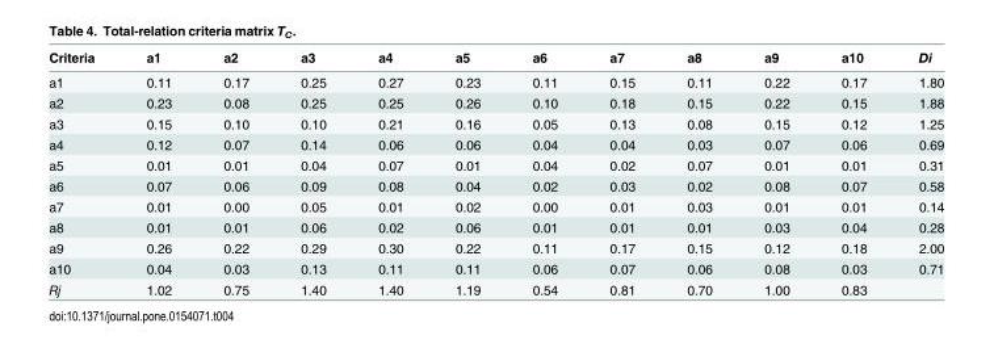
<table><thead><tr><td>Criteria</td><td>a1</td><td>a2</td><td>a3</td><td>a4</td><td>a5</td><td>a6</td><td>a7</td><td>a8</td><td>a9</td><td>a10</td><td>Di</td></tr></thead><tbody><tr><td>a1</td><td>0.11</td><td>0.17</td><td>0.25</td><td>0.27</td><td>0.23</td><td>0.11</td><td>0.15</td><td>0.11</td><td>0.22</td><td>0.17</td><td>1.80</td></tr><tr><td>a2</td><td>0.23</td><td>0.08</td><td>0.25</td><td>0.25</td><td>0.26</td><td>0.10</td><td>0.18</td><td>0.15</td><td>0.22</td><td>0.15</td><td>1.88</td></tr><tr><td>a3</td><td>0.15</td><td>0.10</td><td>0.10</td><td>0.21</td><td>0.16</td><td>0.05</td><td>0.13</td><td>0.08</td><td>0.15</td><td>0.12</td><td>1.25</td></tr><tr><td>a4</td><td>0.12</td><td>0.07</td><td>0.14</td><td>0.06</td><td>0.06</td><td>0.04</td><td>0.04</td><td>0.03</td><td>0.07</td><td>0.06</td><td>0.69</td></tr><tr><td>a5</td><td>0.01</td><td>0.01</td><td>0.04</td><td>0.07</td><td>0.01</td><td>0.04</td><td>0.02</td><td>0.07</td><td>0.01</td><td>0.01</td><td>0.31</td></tr><tr><td>a6</td><td>0.07</td><td>0.06</td><td>0.09</td><td>0.08</td><td>0.04</td><td>0.02</td><td>0.03</td><td>0.02</td><td>0.08</td><td>0.07</td><td>0.58</td></tr><tr><td>a7</td><td>0.01</td><td>0.00</td><td>0.05</td><td>0.01</td><td>0.02</td><td>0.00</td><td>0.01</td><td>0.03</td><td>0.01</td><td>0.01</td><td>0.14</td></tr><tr><td>a8</td><td>0.01</td><td>0.01</td><td>0.06</td><td>0.02</td><td>0.06</td><td>0.01</td><td>0.01</td><td>0.01</td><td>0.03</td><td>0.04</td><td>0.28</td></tr><tr><td>a9</td><td>0.26</td><td>0.22</td><td>0.29</td><td>0.30</td><td>0.22</td><td>0.11</td><td>0.17</td><td>0.15</td><td>0.12</td><td>0.18</td><td>2.00</td></tr><tr><td>a10</td><td>0.04</td><td>0.03</td><td>0.13</td><td>0.11</td><td>0.11</td><td>0.06</td><td>0.07</td><td>0.06</td><td>0.08</td><td>0.03</td><td>0.71</td></tr><tr><td>Rj</td><td>1.02</td><td>0.75</td><td>1.40</td><td>1.40</td><td>1.19</td><td>0.54</td><td>0.81</td><td>0.70</td><td>1.00</td><td>0.83</td><td></td></tr></tbody></table>